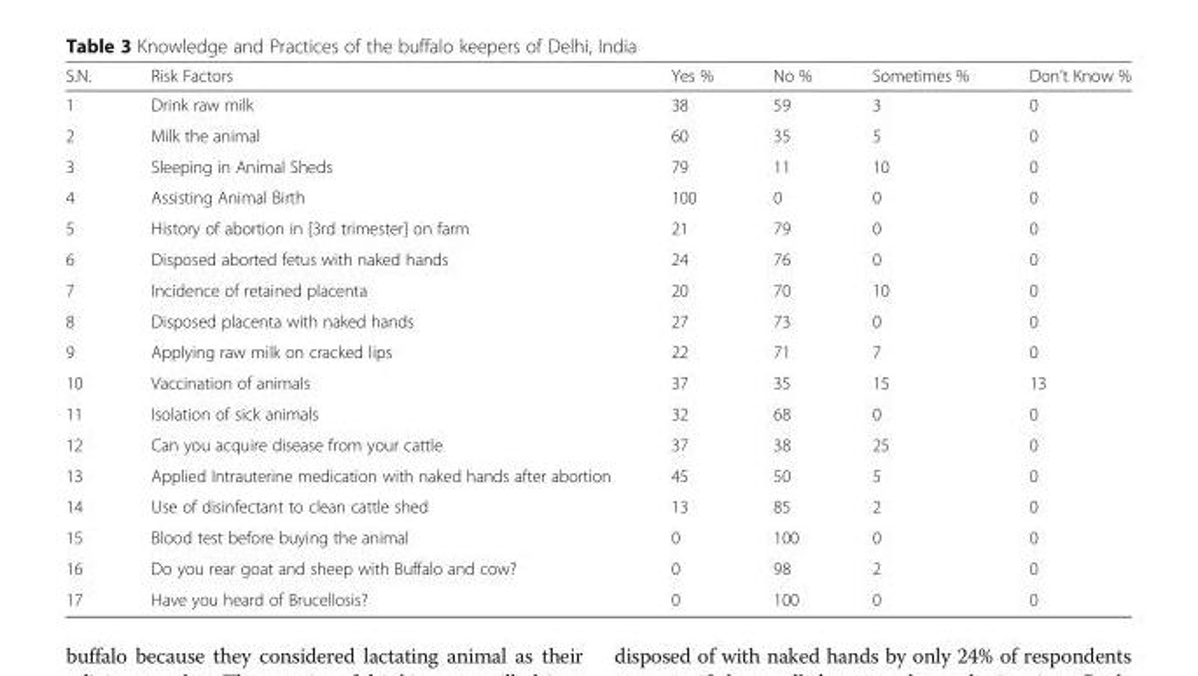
<table><thead><tr><td>S.N.</td><td>Risk Factors</td><td>Yes %</td><td>No %</td><td>Sometimes %</td><td>Don’t Know %</td></tr></thead><tbody><tr><td>1</td><td>Drink raw milk</td><td>38</td><td>59</td><td>3</td><td>0</td></tr><tr><td>2</td><td>Milk the animal</td><td>60</td><td>35</td><td>5</td><td>0</td></tr><tr><td>3</td><td>Sleeping in Animal Sheds</td><td>79</td><td>11</td><td>10</td><td>0</td></tr><tr><td>4</td><td>Assisting Animal Birth</td><td>100</td><td>0</td><td>0</td><td>0</td></tr><tr><td>5</td><td>History of abortion in [3rd trimester] on farm</td><td>21</td><td>79</td><td>0</td><td>0</td></tr><tr><td>6</td><td>Disposed aborted fetus with naked hands</td><td>24</td><td>76</td><td>0</td><td>0</td></tr><tr><td>7</td><td>Incidence of retained placenta</td><td>20</td><td>70</td><td>10</td><td>0</td></tr><tr><td>8</td><td>Disposed placenta with naked hands</td><td>27</td><td>73</td><td>0</td><td>0</td></tr><tr><td>9</td><td>Applying raw milk on cracked lips</td><td>22</td><td>71</td><td>7</td><td>0</td></tr><tr><td>10</td><td>Vaccination of animals</td><td>37</td><td>35</td><td>15</td><td>13</td></tr><tr><td>11</td><td>Isolation of sick animals</td><td>32</td><td>68</td><td>0</td><td>0</td></tr><tr><td>12</td><td>Can you acquire disease from your cattle</td><td>37</td><td>38</td><td>25</td><td>0</td></tr><tr><td>13</td><td>Applied Intrauterine medication with naked hands after abortion</td><td>45</td><td>50</td><td>5</td><td>0</td></tr><tr><td>14</td><td>Use of disinfectant to clean cattle shed</td><td>13</td><td>85</td><td>2</td><td>0</td></tr><tr><td>15</td><td>Blood test before buying the animal</td><td>0</td><td>100</td><td>0</td><td>0</td></tr><tr><td>16</td><td>Do you rear goat and sheep with Buffalo and cow?</td><td>0</td><td>98</td><td>2</td><td>0</td></tr><tr><td>17</td><td>Have you heard of Brucellosis?</td><td>0</td><td>100</td><td>0</td><td>0</td></tr></tbody></table>